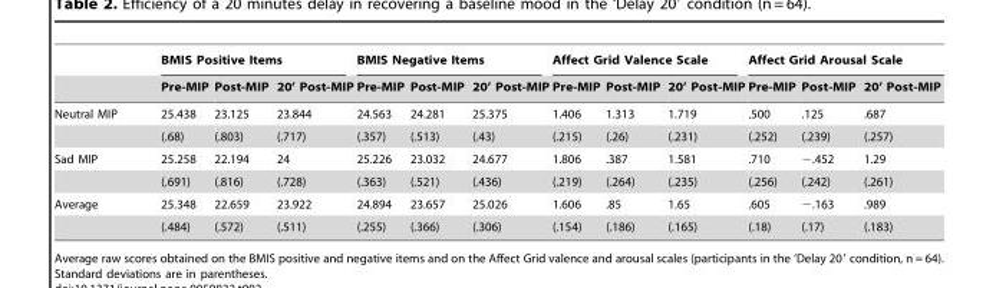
<table><thead><tr><td rowspan="2"></td><td colspan="3">BMIS Positive Items</td><td colspan="3">BMIS Negative Items</td><td colspan="3">Affect Grid Valence Scale</td><td colspan="3">Affect Grid Arousal Scale</td></tr><tr><td>Pre-MIP</td><td>Post-MIP</td><td>20’ Post-MIP</td><td>Pre-MIP</td><td>Post-MIP</td><td>20’ Post-MIP</td><td>Pre-MIP</td><td>Post-MIP</td><td>20’ Post-MIP</td><td>Pre-MIP</td><td>Post-MIP</td><td>20’ Post-MIP</td></tr></thead><tbody><tr><td rowspan="2">Neutral MIP</td><td>25.438</td><td>23.125</td><td>23.844</td><td>24.563</td><td>24.281</td><td>25.375</td><td>1.406</td><td>1.313</td><td>1.719</td><td>.500</td><td>.125</td><td>.687</td></tr><tr><td>(.68)</td><td>(.803)</td><td>(.717)</td><td>(.357)</td><td>(.513)</td><td>(.43)</td><td>(.215)</td><td>(.26)</td><td>(.231)</td><td>(.252)</td><td>(.239)</td><td>(.257)</td></tr><tr><td rowspan="2">Sad MIP</td><td>25.258</td><td>22.194</td><td>24</td><td>25.226</td><td>23.032</td><td>24.677</td><td>1.806</td><td>.387</td><td>1.581</td><td>.710</td><td>−.452</td><td>1.29</td></tr><tr><td>(.691)</td><td>(.816)</td><td>(.728)</td><td>(.363)</td><td>(.521)</td><td>(.436)</td><td>(.219)</td><td>(.264)</td><td>(.235)</td><td>(.256)</td><td>(.242)</td><td>(.261)</td></tr><tr><td rowspan="2">Average</td><td>25.348</td><td>22.659</td><td>23.922</td><td>24.894</td><td>23.657</td><td>25.026</td><td>1.606</td><td>.85</td><td>1.65</td><td>.605</td><td>−.163</td><td>.989</td></tr><tr><td>(.484)</td><td>(.572)</td><td>(.511)</td><td>(.255)</td><td>(.366)</td><td>(.306)</td><td>(.154)</td><td>(.186)</td><td>(.165)</td><td>(.18)</td><td>(.17)</td><td>(.183)</td></tr></tbody></table>